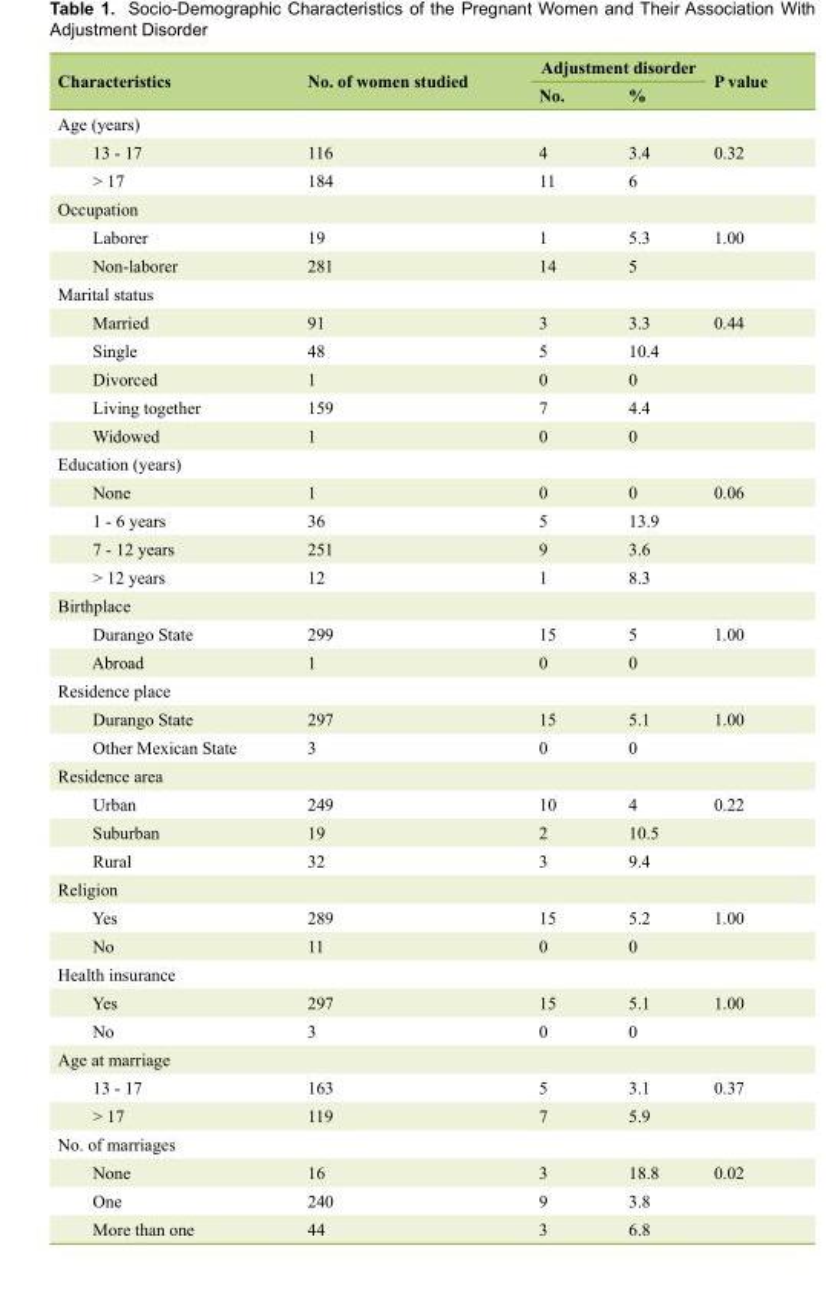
<table><thead><tr><td rowspan="2">Characteristics</td><td rowspan="2">No. of women studied</td><td colspan="2">Adjustment disorder</td><td rowspan="2">P value</td></tr><tr><td>No.</td><td>%</td></tr></thead><tbody><tr><td colspan="5">Age (years)</td></tr><tr><td>13 - 17</td><td>116</td><td>4</td><td>3.4</td><td>0.32</td></tr><tr><td>&gt; 17</td><td>184</td><td>11</td><td>6</td><td></td></tr><tr><td colspan="5">Occupation</td></tr><tr><td>Laborer</td><td>19</td><td>1</td><td>5.3</td><td>1.00</td></tr><tr><td>Non-laborer</td><td>281</td><td>14</td><td>5</td><td></td></tr><tr><td colspan="5">Marital status</td></tr><tr><td>Married</td><td>91</td><td>3</td><td>3.3</td><td>0.44</td></tr><tr><td>Single</td><td>48</td><td>5</td><td>10.4</td><td></td></tr><tr><td>Divorced</td><td>1</td><td>0</td><td>0</td><td></td></tr><tr><td>Living together</td><td>159</td><td>7</td><td>4.4</td><td></td></tr><tr><td>Widowed</td><td>1</td><td>0</td><td>0</td><td></td></tr><tr><td colspan="5">Education (years)</td></tr><tr><td>None</td><td>1</td><td>0</td><td>0</td><td>0.06</td></tr><tr><td>1 - 6 years</td><td>36</td><td>5</td><td>13.9</td><td></td></tr><tr><td>7 - 12 years</td><td>251</td><td>9</td><td>3.6</td><td></td></tr><tr><td>&gt; 12 years</td><td>12</td><td>1</td><td>8.3</td><td></td></tr><tr><td colspan="5">Birthplace</td></tr><tr><td>Durango State</td><td>299</td><td>15</td><td>5</td><td>1.00</td></tr><tr><td>Abroad</td><td>1</td><td>0</td><td>0</td><td></td></tr><tr><td colspan="5">Residence place</td></tr><tr><td>Durango State</td><td>297</td><td>15</td><td>5.1</td><td>1.00</td></tr><tr><td>Other Mexican State</td><td>3</td><td>0</td><td>0</td><td></td></tr><tr><td colspan="5">Residence area</td></tr><tr><td>Urban</td><td>249</td><td>10</td><td>4</td><td>0.22</td></tr><tr><td>Suburban</td><td>19</td><td>2</td><td>10.5</td><td></td></tr><tr><td>Rural</td><td>32</td><td>3</td><td>9.4</td><td></td></tr><tr><td colspan="5">Religion</td></tr><tr><td>Yes</td><td>289</td><td>15</td><td>5.2</td><td>1.00</td></tr><tr><td>No</td><td>11</td><td>0</td><td>0</td><td></td></tr><tr><td colspan="5">Health insurance</td></tr><tr><td>Yes</td><td>297</td><td>15</td><td>5.1</td><td>1.00</td></tr><tr><td>No</td><td>3</td><td>0</td><td>0</td><td></td></tr><tr><td colspan="5">Age at marriage</td></tr><tr><td>13 - 17</td><td>163</td><td>5</td><td>3.1</td><td>0.37</td></tr><tr><td>&gt; 17</td><td>119</td><td>7</td><td>5.9</td><td></td></tr><tr><td colspan="5">No. of marriages</td></tr><tr><td>None</td><td>16</td><td>3</td><td>18.8</td><td>0.02</td></tr><tr><td>One</td><td>240</td><td>9</td><td>3.8</td><td></td></tr><tr><td>More than one</td><td>44</td><td>3</td><td>6.8</td><td></td></tr></tbody></table>